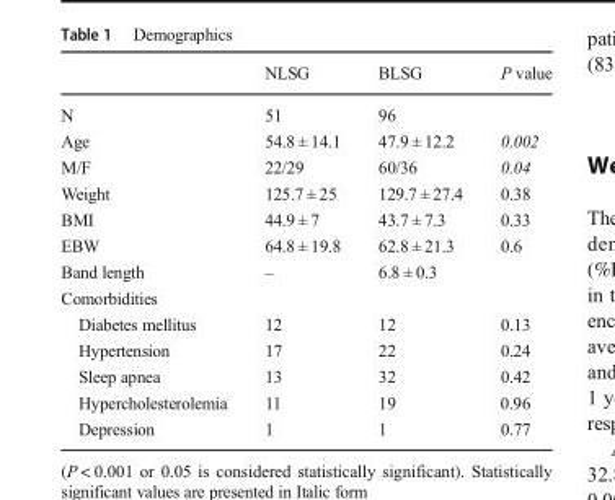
<table><thead><tr><td></td><td>NLSG</td><td>BLSG</td><td>P value</td></tr></thead><tbody><tr><td>N</td><td>51</td><td>96</td><td></td></tr><tr><td>Age</td><td>54.8 ± 14.1</td><td>47.9 ± 12.2</td><td>0.002</td></tr><tr><td>M/F</td><td>22/29</td><td>60/36</td><td>0.04</td></tr><tr><td>Weight</td><td>125.7 ± 25</td><td>129.7 ± 27.4</td><td>0.38</td></tr><tr><td>BMI</td><td>44.9 ± 7</td><td>43.7 ± 7.3</td><td>0.33</td></tr><tr><td>EBW</td><td>64.8 ± 19.8</td><td>62.8 ± 21.3</td><td>0.6</td></tr><tr><td>Band length</td><td>–</td><td>6.8 ± 0.3</td><td></td></tr><tr><td colspan="4">Comorbidities</td></tr><tr><td>Diabetes mellitus</td><td>12</td><td>12</td><td>0.13</td></tr><tr><td>Hypertension</td><td>17</td><td>22</td><td>0.24</td></tr><tr><td>Sleep apnea</td><td>13</td><td>32</td><td>0.42</td></tr><tr><td>Hypercholesterolemia</td><td>11</td><td>19</td><td>0.96</td></tr><tr><td>Depression</td><td>1</td><td>1</td><td>0.77</td></tr></tbody></table>